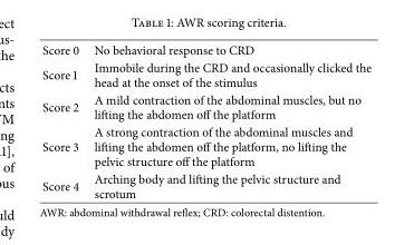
<table><tbody><tr><td>Score 0</td><td>No behavioral response to CRD</td></tr><tr><td>Score 1</td><td>Immobile during the CRD and occasionally clicked the head at the onset of the stimulus</td></tr><tr><td>Score 2</td><td>A mild contraction of the abdominal muscles, but no lifting the abdomen off the platform</td></tr><tr><td>Score 3</td><td>A strong contraction of the abdominal muscles and lifting the abdomen off the platform, no lifting the pelvic structure off the platform</td></tr><tr><td>Score 4</td><td>Arching body and lifting the pelvic structure and scrotum</td></tr></tbody></table>